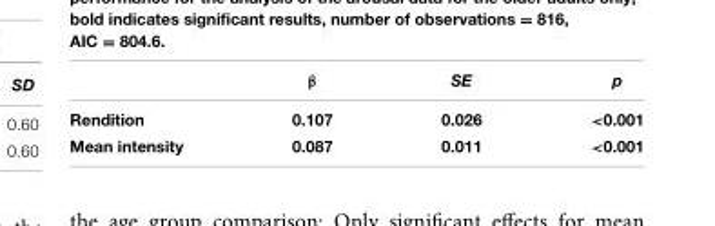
<table><thead><tr><td></td><td>β</td><td>SE</td><td>p</td></tr></thead><tbody><tr><td>Rendition</td><td>0.107</td><td>0.026</td><td>&lt;0.001</td></tr><tr><td>Mean intensity</td><td>0.087</td><td>0.011</td><td>&lt;0.001</td></tr></tbody></table>